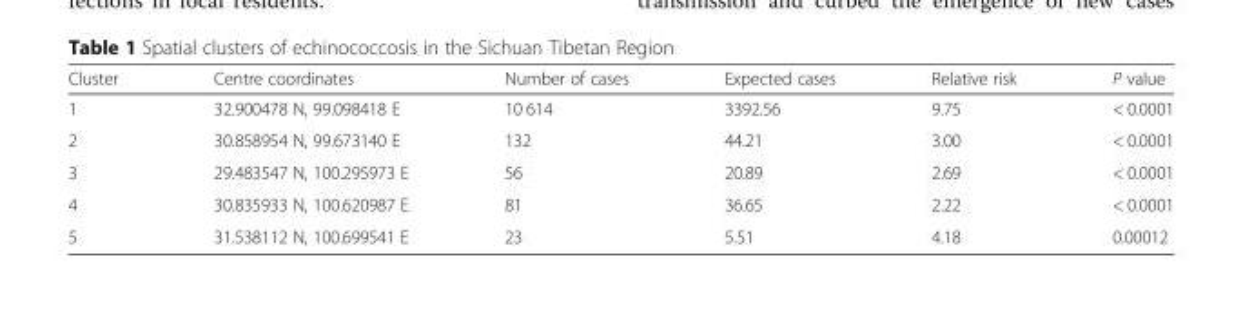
<table><thead><tr><td>Cluster</td><td>Centre coordinates</td><td>Number of cases</td><td>Expected cases</td><td>Relative risk</td><td>P value</td></tr></thead><tbody><tr><td>1</td><td>32.900478 N, 99.098418 E</td><td>10 614</td><td>3392.56</td><td>9.75</td><td>&lt; 0.0001</td></tr><tr><td>2</td><td>30.858954 N, 99.673140 E</td><td>132</td><td>44.21</td><td>3.00</td><td>&lt; 0.0001</td></tr><tr><td>3</td><td>29.483547 N, 100.295973 E</td><td>56</td><td>20.89</td><td>2.69</td><td>&lt; 0.0001</td></tr><tr><td>4</td><td>30.835933 N, 100.620987 E</td><td>81</td><td>36.65</td><td>2.22</td><td>&lt; 0.0001</td></tr><tr><td>5</td><td>31.538112 N, 100.699541 E</td><td>23</td><td>5.51</td><td>4.18</td><td>0.00012</td></tr></tbody></table>